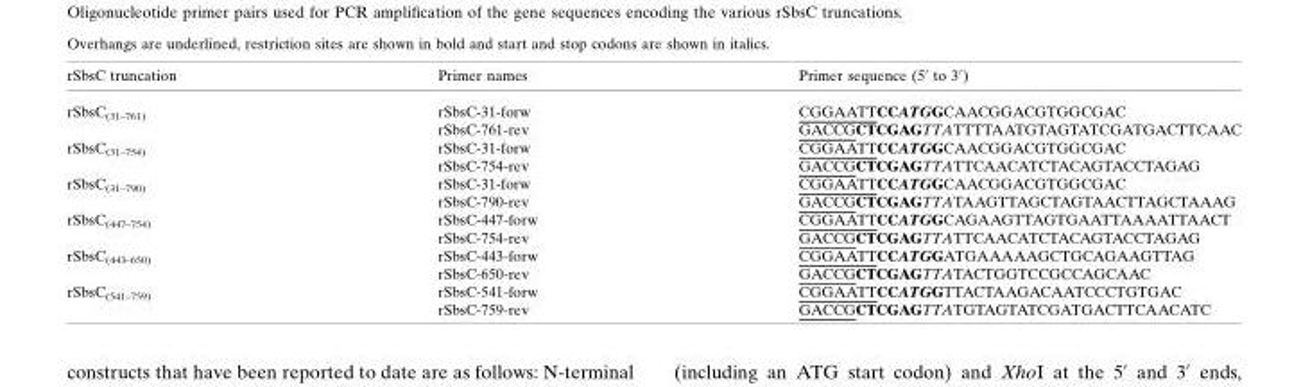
<table><thead><tr><td>rSbsC truncation</td><td>Primer names</td><td>Primer sequence (5′ to 3′)</td></tr></thead><tbody><tr><td rowspan="2">rSbsC<sub>(31–761)</sub></td><td>rSbsC-31-forw</td><td>CGGAATTCCATGGCAACGGACGTGGCGAC</td></tr><tr><td>rSbsC-761-rev</td><td>GACCGCTCGAGTTATTTTAATGTAGTATCGATGACTTCAAC</td></tr><tr><td rowspan="2">rSbsC<sub>(31–754)</sub></td><td>rSbsC-31-forw</td><td>CGGAATTCCATGGCAACGGACGTGGCGAC</td></tr><tr><td>rSbsC-754-rev</td><td>GACCGCTCGAGTTATTCAACATCTACAGTACCTAGAG</td></tr><tr><td rowspan="2">rSbsC<sub>(31–790)</sub></td><td>rSbsC-31-forw</td><td>CGGAATTCCATGGCAACGGACGTGGCGAC</td></tr><tr><td>rSbsC-790-rev</td><td>GACCGCTCGAGTTATAAGTTAGCTAGTAACTTAGCTAAAG</td></tr><tr><td rowspan="2">rSbsC<sub>(447–754)</sub></td><td>rSbsC-447-forw</td><td>CGGAATTCCATGGCAGAAGTTAGTGAATTAAAATTAACT</td></tr><tr><td>rSbsC-754-rev</td><td>GACCGCTCGAGTTATTCAACATCTACAGTACCTAGAG</td></tr><tr><td rowspan="2">rSbsC<sub>(443–650)</sub></td><td>rSbsC-443-forw</td><td>CGGAATTCCATGGATGAAAAAGCTGCAGAAGTTAG</td></tr><tr><td>rSbsC-650-rev</td><td>GACCGCTCGAGTTATACTGGTCCGCCAGCAAC</td></tr><tr><td rowspan="2">rSbsC<sub>(541–759)</sub></td><td>rSbsC-541-forw</td><td>CGGAATTCCATGGTTACTAAGACAATCCCTGTGAC</td></tr><tr><td>rSbsC-759-rev</td><td>GACCGCTCGAGTTATGTAGTATCGATGACTTCAACATC</td></tr></tbody></table>